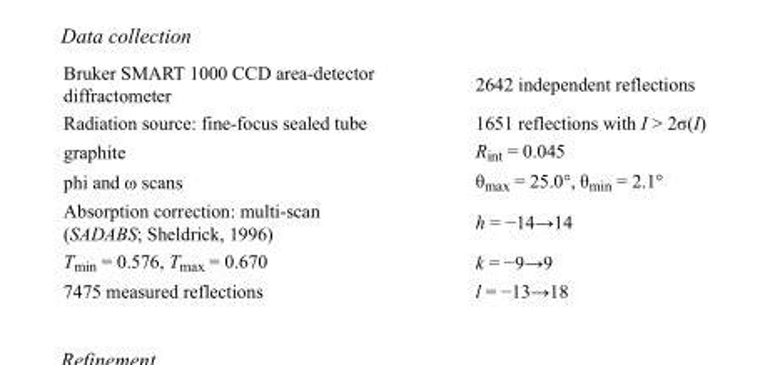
<table><tbody><tr><td>Bruker SMART 1000 CCD area-detector diffractometer</td><td>2642 independent reflections</td></tr><tr><td>Radiation source: fine-focus sealed tube</td><td>1651 reflections with I &gt; 2σ(I)</td></tr><tr><td>graphite</td><td>R<sub>int</sub> = 0.045</td></tr><tr><td>phi and ω scans</td><td>θ<sub>max</sub> = 25.0°, θ<sub>min</sub> = 2.1°</td></tr><tr><td>Absorption correction: multi-scan (SADABS; Sheldrick, 1996)</td><td>h = −14→14</td></tr><tr><td>T<sub>min</sub> = 0.576, T<sub>max</sub> = 0.670</td><td>k = −9→9</td></tr><tr><td>7475 measured reflections</td><td>l = −13→18</td></tr></tbody></table>